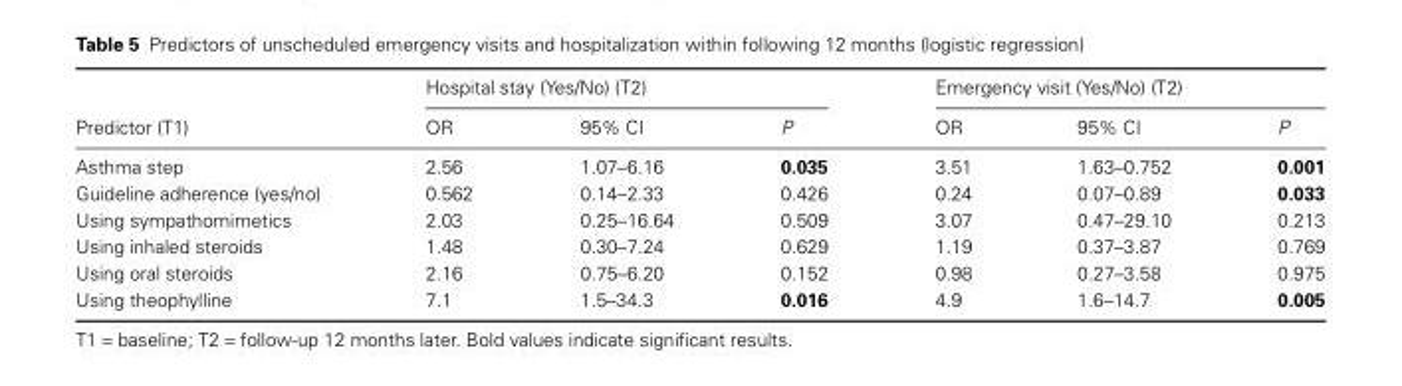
<table><thead><tr><td rowspan="2">Predictor (T1)</td><td colspan="3">Hospital stay (Yes/No) (T2)</td><td colspan="3">Emergency visit (Yes/No) (T2)</td></tr><tr><td>OR</td><td>95% CI</td><td>P</td><td>OR</td><td>95% CI</td><td>P</td></tr></thead><tbody><tr><td>Asthma step</td><td>2.56</td><td>1.07–6.16</td><td>0.035</td><td>3.51</td><td>1.63–0.752</td><td>0.001</td></tr><tr><td>Guideline adherence (yes/no)</td><td>0.562</td><td>0.14–2.33</td><td>0.426</td><td>0.24</td><td>0.07–0.89</td><td>0.033</td></tr><tr><td>Using sympathomimetics</td><td>2.03</td><td>0.25–16.64</td><td>0.509</td><td>3.07</td><td>0.47–29.10</td><td>0.213</td></tr><tr><td>Using inhaled steroids</td><td>1.48</td><td>0.30–7.24</td><td>0.629</td><td>1.19</td><td>0.37–3.87</td><td>0.769</td></tr><tr><td>Using oral steroids</td><td>2.16</td><td>0.75–6.20</td><td>0.152</td><td>0.98</td><td>0.27–3.58</td><td>0.975</td></tr><tr><td>Using theophylline</td><td>7.1</td><td>1.5–34.3</td><td>0.016</td><td>4.9</td><td>1.6–14.7</td><td>0.005</td></tr></tbody></table>